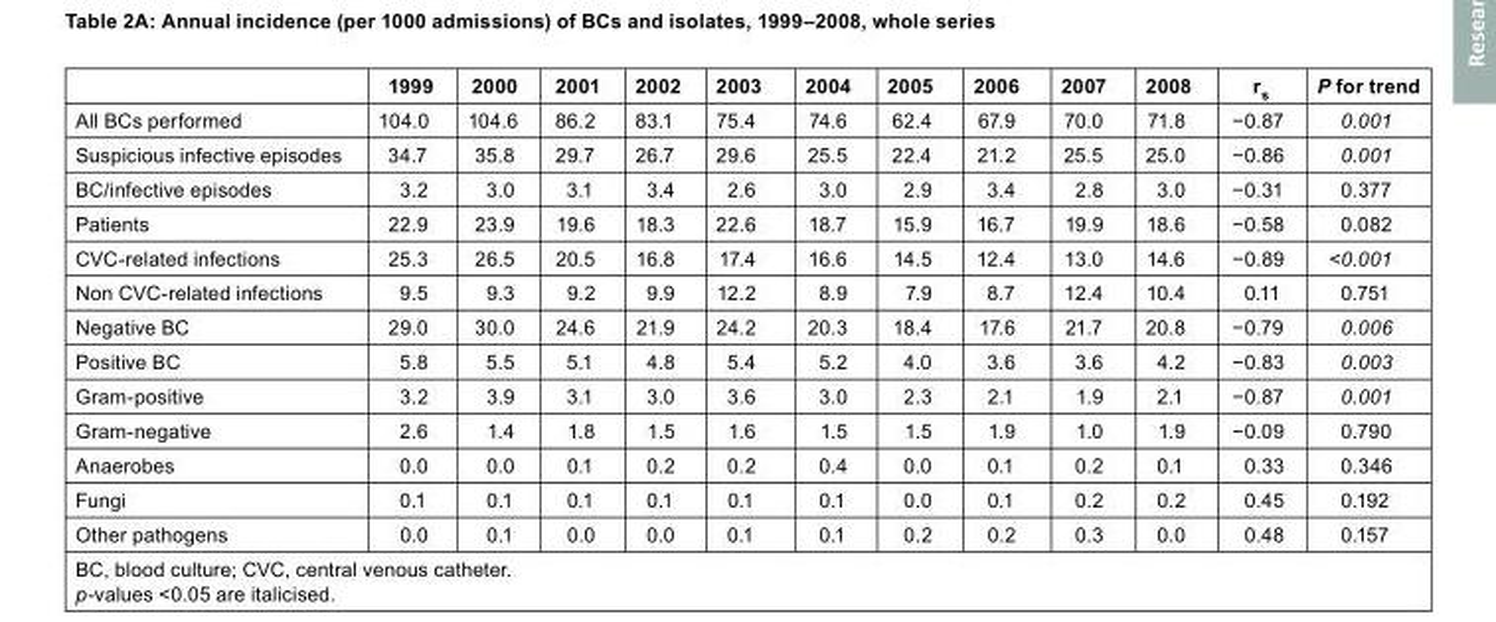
<table><thead><tr><td></td><td>1999</td><td>2000</td><td>2001</td><td>2002</td><td>2003</td><td>2004</td><td>2005</td><td>2006</td><td>2007</td><td>2008</td><td>r<sub>s</sub></td><td>P for trend</td></tr></thead><tbody><tr><td>All BCs performed</td><td>104.0</td><td>104.6</td><td>86.2</td><td>83.1</td><td>75.4</td><td>74.6</td><td>62.4</td><td>67.9</td><td>70.0</td><td>71.8</td><td>−0.87</td><td>0.001</td></tr><tr><td>Suspicious infective episodes</td><td>34.7</td><td>35.8</td><td>29.7</td><td>26.7</td><td>29.6</td><td>25.5</td><td>22.4</td><td>21.2</td><td>25.5</td><td>25.0</td><td>−0.86</td><td>0.001</td></tr><tr><td>BC/infective episodes</td><td>3.2</td><td>3.0</td><td>3.1</td><td>3.4</td><td>2.6</td><td>3.0</td><td>2.9</td><td>3.4</td><td>2.8</td><td>3.0</td><td>−0.31</td><td>0.377</td></tr><tr><td>Patients</td><td>22.9</td><td>23.9</td><td>19.6</td><td>18.3</td><td>22.6</td><td>18.7</td><td>15.9</td><td>16.7</td><td>19.9</td><td>18.6</td><td>−0.58</td><td>0.082</td></tr><tr><td>CVC-related infections</td><td>25.3</td><td>26.5</td><td>20.5</td><td>16.8</td><td>17.4</td><td>16.6</td><td>14.5</td><td>12.4</td><td>13.0</td><td>14.6</td><td>−0.89</td><td>&lt;0.001</td></tr><tr><td>Non CVC-related infections</td><td>9.5</td><td>9.3</td><td>9.2</td><td>9.9</td><td>12.2</td><td>8.9</td><td>7.9</td><td>8.7</td><td>12.4</td><td>10.4</td><td>0.11</td><td>0.751</td></tr><tr><td>Negative BC</td><td>29.0</td><td>30.0</td><td>24.6</td><td>21.9</td><td>24.2</td><td>20.3</td><td>18.4</td><td>17.6</td><td>21.7</td><td>20.8</td><td>−0.79</td><td>0.006</td></tr><tr><td>Positive BC</td><td>5.8</td><td>5.5</td><td>5.1</td><td>4.8</td><td>5.4</td><td>5.2</td><td>4.0</td><td>3.6</td><td>3.6</td><td>4.2</td><td>−0.83</td><td>0.003</td></tr><tr><td>Gram-positive</td><td>3.2</td><td>3.9</td><td>3.1</td><td>3.0</td><td>3.6</td><td>3.0</td><td>2.3</td><td>2.1</td><td>1.9</td><td>2.1</td><td>−0.87</td><td>0.001</td></tr><tr><td>Gram-negative</td><td>2.6</td><td>1.4</td><td>1.8</td><td>1.5</td><td>1.6</td><td>1.5</td><td>1.5</td><td>1.9</td><td>1.0</td><td>1.9</td><td>−0.09</td><td>0.790</td></tr><tr><td>Anaerobes</td><td>0.0</td><td>0.0</td><td>0.1</td><td>0.2</td><td>0.2</td><td>0.4</td><td>0.0</td><td>0.1</td><td>0.2</td><td>0.1</td><td>0.33</td><td>0.346</td></tr><tr><td>Fungi</td><td>0.1</td><td>0.1</td><td>0.1</td><td>0.1</td><td>0.1</td><td>0.1</td><td>0.0</td><td>0.1</td><td>0.2</td><td>0.2</td><td>0.45</td><td>0.192</td></tr><tr><td>Other pathogens</td><td>0.0</td><td>0.1</td><td>0.0</td><td>0.0</td><td>0.1</td><td>0.1</td><td>0.2</td><td>0.2</td><td>0.3</td><td>0.0</td><td>0.48</td><td>0.157</td></tr></tbody></table>